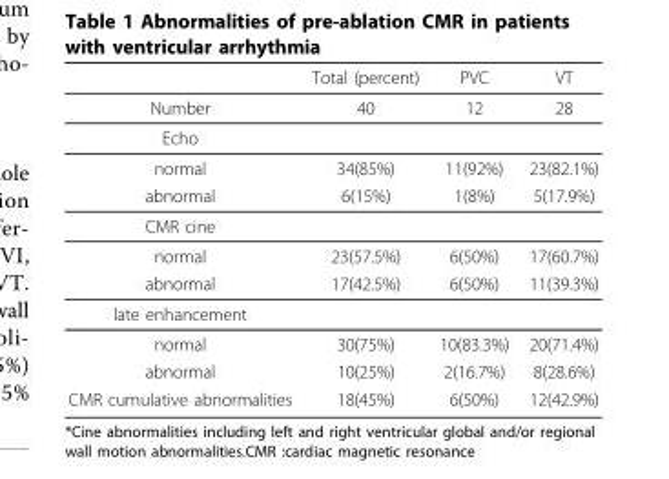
<table><thead><tr><td></td><td>Total (percent)</td><td>PVC</td><td>VT</td></tr></thead><tbody><tr><td>Number</td><td>40</td><td>12</td><td>28</td></tr><tr><td colspan="4">Echo</td></tr><tr><td>normal</td><td>34(85%)</td><td>11(92%)</td><td>23(82.1%)</td></tr><tr><td>abnormal</td><td>6(15%)</td><td>1(8%)</td><td>5(17.9%)</td></tr><tr><td colspan="4">CMR cine</td></tr><tr><td>normal</td><td>23(57.5%)</td><td>6(50%)</td><td>17(60.7%)</td></tr><tr><td>abnormal</td><td>17(42.5%)</td><td>6(50%)</td><td>11(39.3%)</td></tr><tr><td colspan="4">late enhancement</td></tr><tr><td>normal</td><td>30(75%)</td><td>10(83.3%)</td><td>20(71.4%)</td></tr><tr><td>abnormal</td><td>10(25%)</td><td>2(16.7%)</td><td>8(28.6%)</td></tr><tr><td>CMR cumulative abnormalities</td><td>18(45%)</td><td>6(50%)</td><td>12(42.9%)</td></tr></tbody></table>